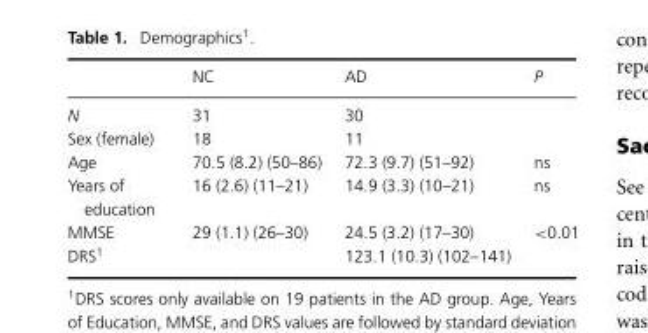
<table><thead><tr><td></td><td>NC</td><td>AD</td><td>P</td></tr></thead><tbody><tr><td>N</td><td>31</td><td>30</td><td></td></tr><tr><td>Sex (female)</td><td>18</td><td>11</td><td></td></tr><tr><td>Age</td><td>70.5 (8.2) (50–86)</td><td>72.3 (9.7) (51–92)</td><td>ns</td></tr><tr><td>Years of education</td><td>16 (2.6) (11–21)</td><td>14.9 (3.3) (10–21)</td><td>ns</td></tr><tr><td>MMSE</td><td>29 (1.1) (26–30)</td><td>24.5 (3.2) (17–30)</td><td>&lt;0.01</td></tr><tr><td>DRS<sup>1</sup></td><td></td><td>123.1 (10.3) (102–141)</td><td></td></tr></tbody></table>